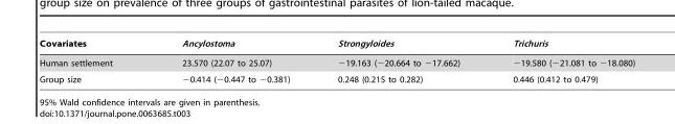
<table><thead><tr><td>Covariates</td><td>Ancylostoma</td><td>Strongyloides</td><td>Trichuris</td></tr></thead><tbody><tr><td>Human settlement</td><td>23.570 (22.07 to 25.07)</td><td>−19.163 (−20.664 to −17.662)</td><td>−19.580 (−21.081 to −18.080)</td></tr><tr><td>Group size</td><td>−0.414 (−0.447 to −0.381)</td><td>0.248 (0.215 to 0.282)</td><td>0.446 (0.412 to 0.479)</td></tr></tbody></table>